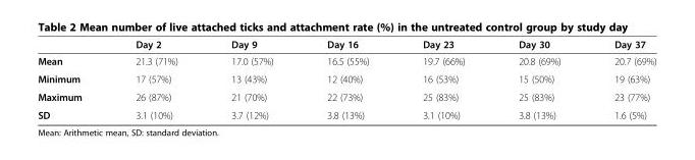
<table><thead><tr><td></td><td>Day 2</td><td>Day 9</td><td>Day 16</td><td>Day 23</td><td>Day 30</td><td>Day 37</td></tr></thead><tbody><tr><td>Mean</td><td>21.3 (71%)</td><td>17.0 (57%)</td><td>16.5 (55%)</td><td>19.7 (66%)</td><td>20.8 (69%)</td><td>20.7 (69%)</td></tr><tr><td>Minimum</td><td>17 (57%)</td><td>13 (43%)</td><td>12 (40%)</td><td>16 (53%)</td><td>15 (50%)</td><td>19 (63%)</td></tr><tr><td>Maximum</td><td>26 (87%)</td><td>21 (70%)</td><td>22 (73%)</td><td>25 (83%)</td><td>25 (83%)</td><td>23 (77%)</td></tr><tr><td>SD</td><td>3.1 (10%)</td><td>3.7 (12%)</td><td>3.8 (13%)</td><td>3.1 (10%)</td><td>3.8 (13%)</td><td>1.6 (5%)</td></tr></tbody></table>